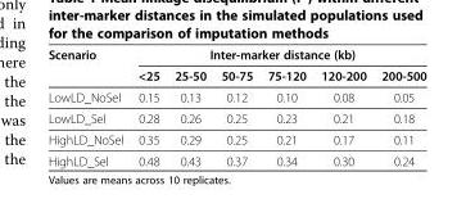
<table><thead><tr><td rowspan="2">Scenario</td><td colspan="6">Inter-marker distance (kb)</td></tr><tr><td>&lt;25</td><td>25-50</td><td>50-75</td><td>75-120</td><td>120-200</td><td>200-500</td></tr></thead><tbody><tr><td>LowLD_NoSel</td><td>0.15</td><td>0.13</td><td>0.12</td><td>0.10</td><td>0.08</td><td>0.05</td></tr><tr><td>LowLD_Sel</td><td>0.28</td><td>0.26</td><td>0.25</td><td>0.23</td><td>0.21</td><td>0.18</td></tr><tr><td>HighLD_NoSel</td><td>0.35</td><td>0.29</td><td>0.25</td><td>0.21</td><td>0.17</td><td>0.11</td></tr><tr><td>HighLD_Sel</td><td>0.48</td><td>0.43</td><td>0.37</td><td>0.34</td><td>0.30</td><td>0.24</td></tr></tbody></table>